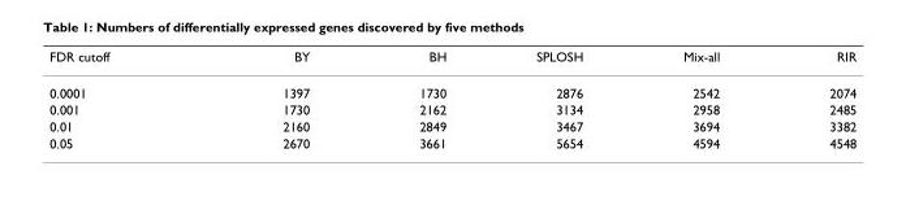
<table><thead><tr><td>FDR cutoff</td><td>BY</td><td>BH</td><td>SPLOSH</td><td>Mix-all</td><td>RIR</td></tr></thead><tbody><tr><td>0.0001</td><td>1397</td><td>1730</td><td>2876</td><td>2542</td><td>2074</td></tr><tr><td>0.001</td><td>1730</td><td>2162</td><td>3134</td><td>2958</td><td>2485</td></tr><tr><td>0.01</td><td>2160</td><td>2849</td><td>3467</td><td>3694</td><td>3382</td></tr><tr><td>0.05</td><td>2670</td><td>3661</td><td>5654</td><td>4594</td><td>4548</td></tr></tbody></table>